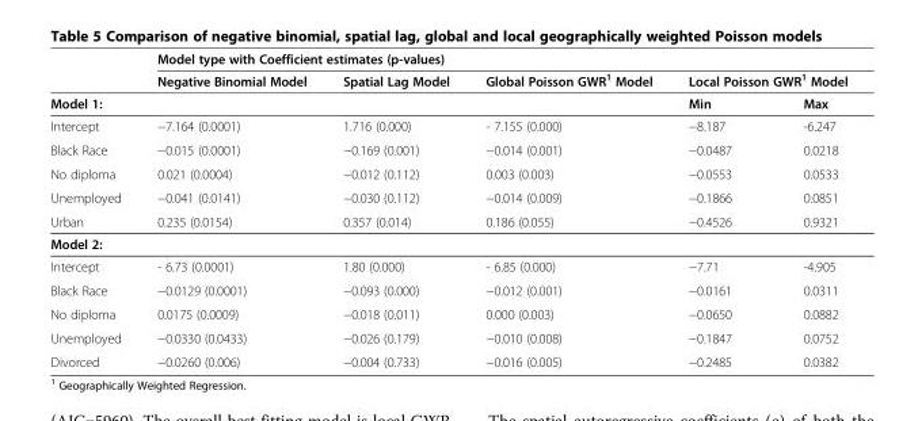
<table><thead><tr><td rowspan="3">Model 1:</td><td colspan="5">Model type with Coefficient estimates (p-values)</td></tr><tr><td rowspan="2">Negative Binomial Model</td><td rowspan="2">Spatial Lag Model</td><td rowspan="2">Global Poisson GWR<sup>1</sup> Model</td><td colspan="2">Local Poisson GWR<sup>1</sup> Model</td></tr><tr><td>Min</td><td>Max</td></tr></thead><tbody><tr><td>Intercept</td><td>−7.164 (0.0001)</td><td>1.716 (0.000)</td><td>- 7.155 (0.000)</td><td>−8.187</td><td>-6.247</td></tr><tr><td>Black Race</td><td>−0.015 (0.0001)</td><td>−0.169 (0.001)</td><td>−0.014 (0.001)</td><td>−0.0487</td><td>0.0218</td></tr><tr><td>No diploma</td><td>0.021 (0.0004)</td><td>−0.012 (0.112)</td><td>0.003 (0.003)</td><td>−0.0553</td><td>0.0533</td></tr><tr><td>Unemployed</td><td>−0.041 (0.0141)</td><td>−0.030 (0.112)</td><td>−0.014 (0.009)</td><td>−0.1866</td><td>0.0851</td></tr><tr><td>Urban</td><td>0.235 (0.0154)</td><td>0.357 (0.014)</td><td>0.186 (0.055)</td><td>−0.4526</td><td>0.9321</td></tr><tr><td colspan="6">Model 2:</td></tr><tr><td>Intercept</td><td>- 6.73 (0.0001)</td><td>1.80 (0.000)</td><td>- 6.85 (0.000)</td><td>−7.71</td><td>-4.905</td></tr><tr><td>Black Race</td><td>−0.0129 (0.0001)</td><td>−0.093 (0.000)</td><td>−0.012 (0.001)</td><td>−0.0161</td><td>0.0311</td></tr><tr><td>No diploma</td><td>0.0175 (0.0009)</td><td>−0.018 (0.011)</td><td>0.000 (0.003)</td><td>−0.0650</td><td>0.0882</td></tr><tr><td>Unemployed</td><td>−0.0330 (0.0433)</td><td>−0.026 (0.179)</td><td>−0.010 (0.008)</td><td>−0.1847</td><td>0.0752</td></tr><tr><td>Divorced</td><td>−0.0260 (0.006)</td><td>−0.004 (0.733)</td><td>−0.016 (0.005)</td><td>−0.2485</td><td>0.0382</td></tr></tbody></table>